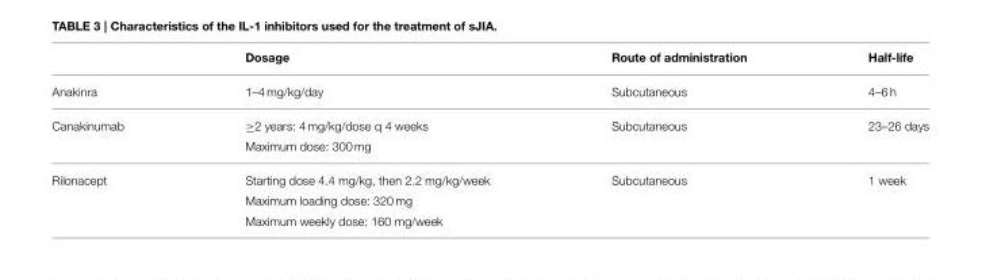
<table><thead><tr><td></td><td>Dosage</td><td>Route of administration</td><td>Half-life</td></tr></thead><tbody><tr><td>Anakinra</td><td>1–4 mg/kg/day</td><td>Subcutaneous</td><td>4–6 h</td></tr><tr><td rowspan="2">Canakinumab</td><td>≥2 years: 4 mg/kg/dose q 4 weeks</td><td>Subcutaneous</td><td>23–26 days</td></tr><tr><td>Maximum dose: 300 mg</td><td></td><td></td></tr><tr><td rowspan="3">Rilonacept</td><td>Starting dose 4.4 mg/kg, then 2.2 mg/kg/week</td><td>Subcutaneous</td><td>1 week</td></tr><tr><td>Maximum loading dose: 320 mg</td><td></td><td></td></tr><tr><td>Maximum weekly dose: 160 mg/week</td><td></td><td></td></tr></tbody></table>